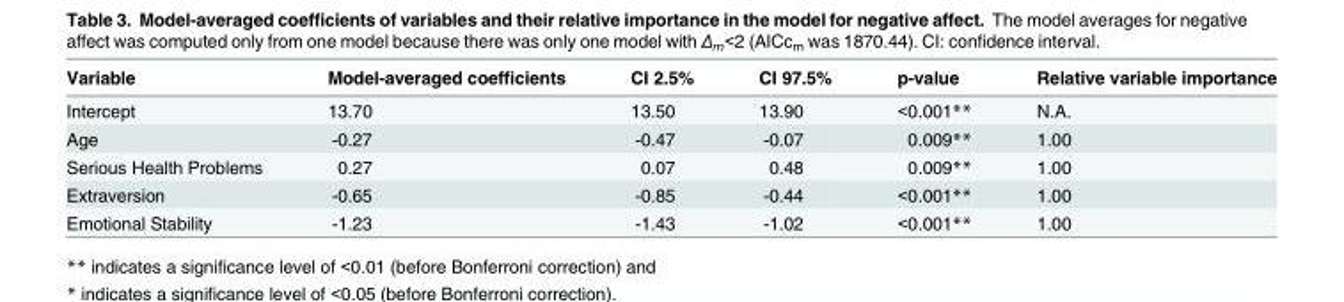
<table><thead><tr><td>Variable</td><td>Model-averaged coefficients</td><td>CI 2.5%</td><td>CI 97.5%</td><td>p-value</td><td>Relative variable importance</td></tr></thead><tbody><tr><td>Intercept</td><td>13.70</td><td>13.50</td><td>13.90</td><td>&lt;0.001**</td><td>N.A.</td></tr><tr><td>Age</td><td>-0.27</td><td>-0.47</td><td>-0.07</td><td>0.009**</td><td>1.00</td></tr><tr><td>Serious Health Problems</td><td>0.27</td><td>0.07</td><td>0.48</td><td>0.009**</td><td>1.00</td></tr><tr><td>Extraversion</td><td>-0.65</td><td>-0.85</td><td>-0.44</td><td>&lt;0.001**</td><td>1.00</td></tr><tr><td>Emotional Stability</td><td>-1.23</td><td>-1.43</td><td>-1.02</td><td>&lt;0.001**</td><td>1.00</td></tr></tbody></table>